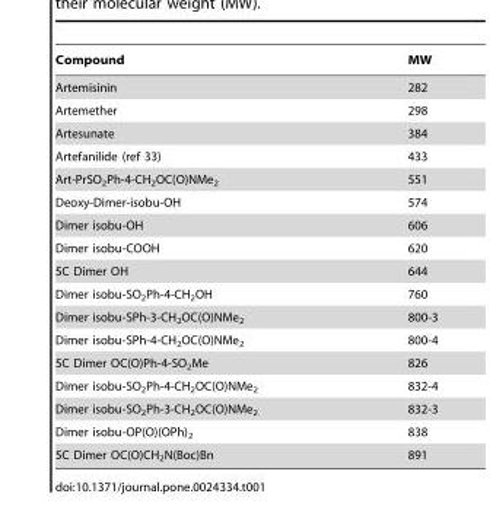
<table><thead><tr><td>Compound</td><td>MW</td></tr></thead><tbody><tr><td>Artemisinin</td><td>282</td></tr><tr><td>Artemether</td><td>298</td></tr><tr><td>Artesunate</td><td>384</td></tr><tr><td>Artefanilide (ref 33)</td><td>433</td></tr><tr><td>Art-PrSO<sub>2</sub>Ph-4-CH<sub>2</sub>OC(O)NMe<sub>2</sub></td><td>551</td></tr><tr><td>Deoxy-Dimer-isobu-OH</td><td>574</td></tr><tr><td>Dimer isobu-OH</td><td>606</td></tr><tr><td>Dimer isobu-COOH</td><td>620</td></tr><tr><td>5C Dimer OH</td><td>644</td></tr><tr><td>Dimer isobu-SO<sub>2</sub>Ph-4-CH<sub>2</sub>OH</td><td>760</td></tr><tr><td>Dimer isobu-SPh-3-CH<sub>2</sub>OC(O)NMe<sub>2</sub></td><td>800-3</td></tr><tr><td>Dimer isobu-SPh-4-CH<sub>2</sub>OC(O)NMe<sub>2</sub></td><td>800-4</td></tr><tr><td>5C Dimer OC(O)Ph-4-SO<sub>2</sub>Me</td><td>826</td></tr><tr><td>Dimer isobu-SO<sub>2</sub>Ph-4-CH<sub>2</sub>OC(O)NMe<sub>2</sub></td><td>832-4</td></tr><tr><td>Dimer isobu-SO<sub>2</sub>Ph-3-CH<sub>2</sub>OC(O)NMe<sub>2</sub></td><td>832-3</td></tr><tr><td>Dimer isobu-OP(O)(OPh)<sub>2</sub></td><td>838</td></tr><tr><td>5C Dimer OC(O)CH<sub>2</sub>N(Boc)Bn</td><td>891</td></tr></tbody></table>